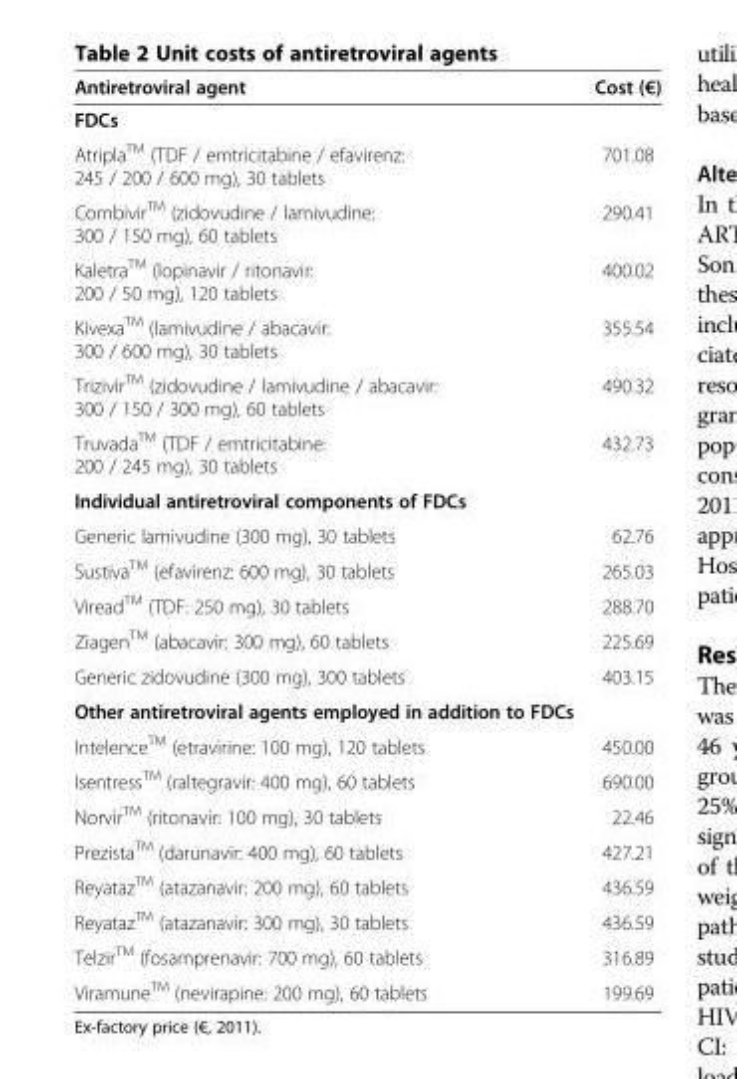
<table><thead><tr><td>Antiretroviral agent</td><td>Cost (€)</td></tr></thead><tbody><tr><td colspan="2">FDCs</td></tr><tr><td>Atripla<sup>TM</sup> (TDF / emtricitabine / efavirenz: 245 / 200 / 600 mg), 30 tablets</td><td>701.08</td></tr><tr><td>Combivir<sup>TM</sup> (zidovudine / lamivudine: 300 / 150 mg), 60 tablets</td><td>290.41</td></tr><tr><td>Kaletra<sup>TM</sup> (lopinavir / ritonavir: 200 / 50 mg), 120 tablets</td><td>400.02</td></tr><tr><td>Kivexa<sup>TM</sup> (lamivudine / abacavir: 300 / 600 mg), 30 tablets</td><td>355.54</td></tr><tr><td>Trizivir<sup>TM</sup> (zidovudine / lamivudine / abacavir: 300 / 150 / 300 mg), 60 tablets</td><td>490.32</td></tr><tr><td>Truvada<sup>TM</sup> (TDF / emtricitabine: 200 / 245 mg), 30 tablets</td><td>432.73</td></tr><tr><td colspan="2">Individual antiretroviral components of FDCs</td></tr><tr><td>Generic lamivudine (300 mg), 30 tablets</td><td>62.76</td></tr><tr><td>Sustiva<sup>TM</sup> (efavirenz: 600 mg), 30 tablets</td><td>265.03</td></tr><tr><td>Viread<sup>TM</sup> (TDF: 250 mg), 30 tablets</td><td>288.70</td></tr><tr><td>Ziagen<sup>TM</sup> (abacavir: 300 mg), 60 tablets</td><td>225.69</td></tr><tr><td>Generic zidovudine (300 mg), 300 tablets</td><td>403.15</td></tr><tr><td colspan="2">Other antiretroviral agents employed in addition to FDCs</td></tr><tr><td>Intelence<sup>TM</sup> (etravirine: 100 mg), 120 tablets</td><td>450.00</td></tr><tr><td>Isentress<sup>TM</sup> (raltegravir: 400 mg), 60 tablets</td><td>690.00</td></tr><tr><td>Norvir<sup>TM</sup> (ritonavir: 100 mg), 30 tablets</td><td>22.46</td></tr><tr><td>Prezista<sup>TM</sup> (darunavir: 400 mg), 60 tablets</td><td>427.21</td></tr><tr><td>Reyataz<sup>TM</sup> (atazanavir: 200 mg), 60 tablets</td><td>436.59</td></tr><tr><td>Reyataz<sup>TM</sup> (atazanavir: 300 mg), 30 tablets</td><td>436.59</td></tr><tr><td>Telzir<sup>TM</sup> (fosamprenavir: 700 mg), 60 tablets</td><td>316.89</td></tr><tr><td>Viramune<sup>TM</sup> (nevirapine: 200 mg), 60 tablets</td><td>199.69</td></tr></tbody></table>